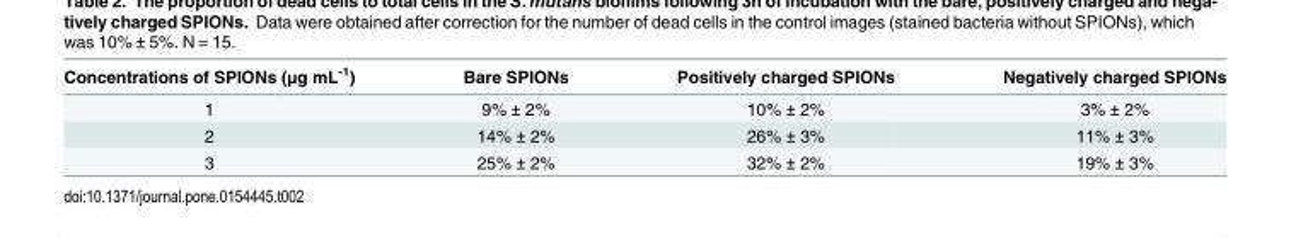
<table><thead><tr><td>Concentrations of SPIONs (μg mL<sup>-1</sup>)</td><td>Bare SPIONs</td><td>Positively charged SPIONs</td><td>Negatively charged SPIONs</td></tr></thead><tbody><tr><td>1</td><td>9% ± 2%</td><td>10% ± 2%</td><td>3% ± 2%</td></tr><tr><td>2</td><td>14% ± 2%</td><td>26% ± 3%</td><td>11% ± 3%</td></tr><tr><td>3</td><td>25% ± 2%</td><td>32% ± 2%</td><td>19% ± 3%</td></tr></tbody></table>